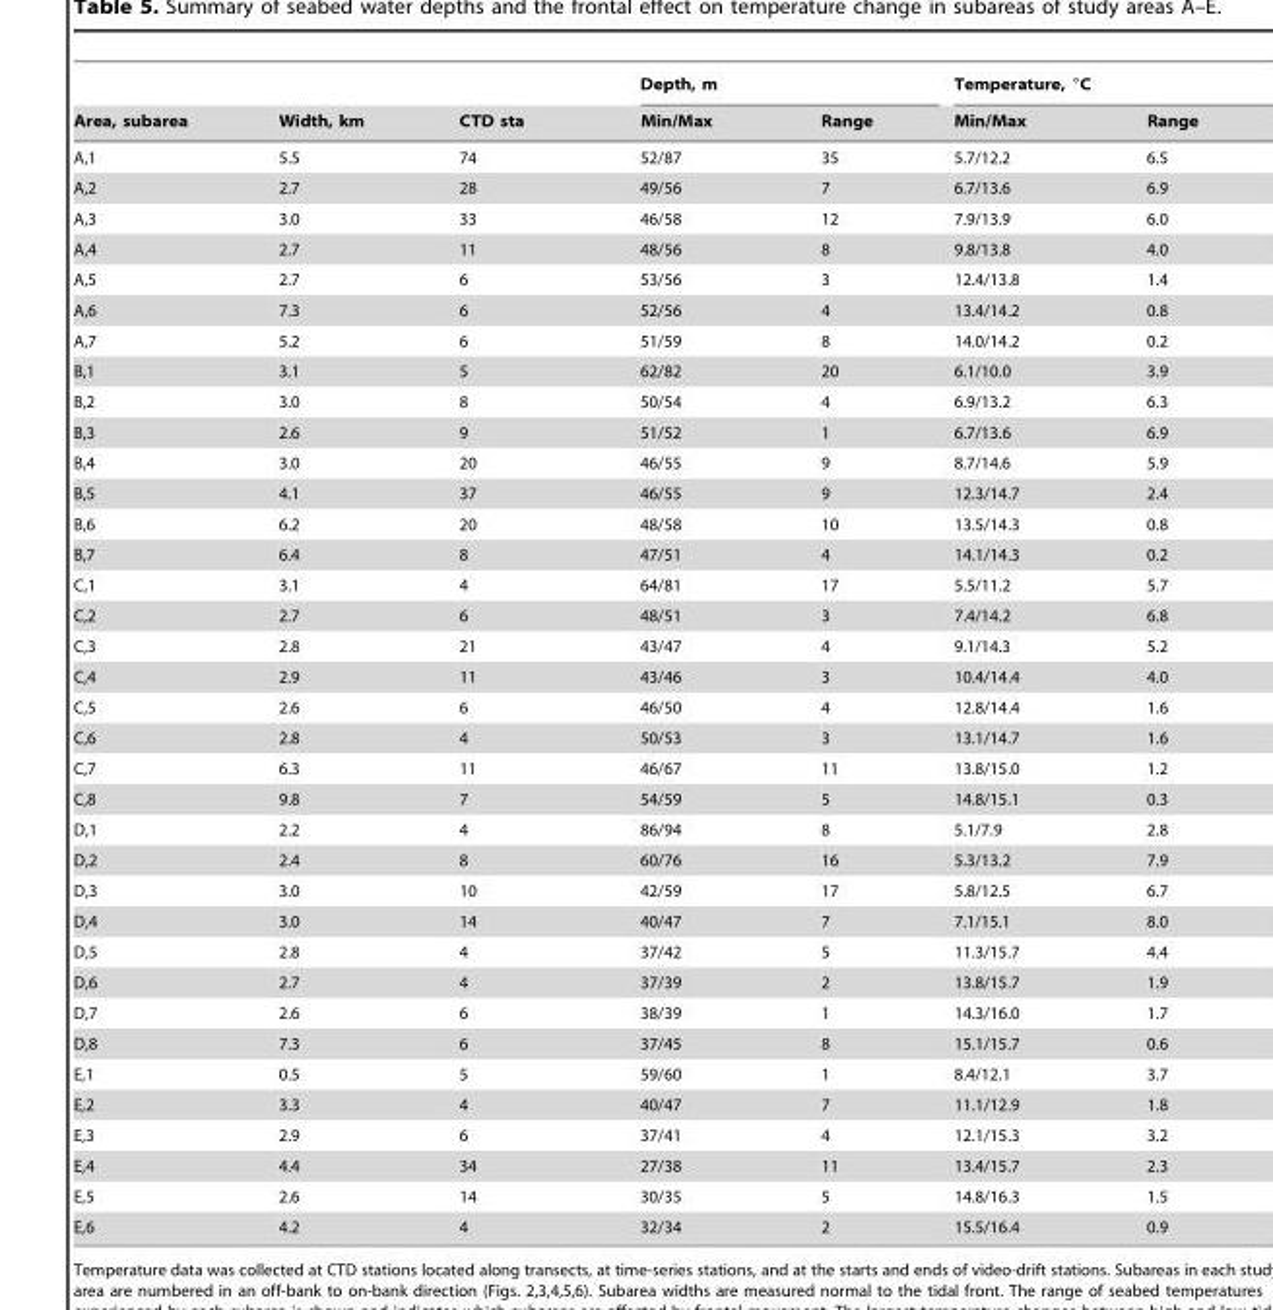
<table><thead><tr><td rowspan="2">Area, subarea</td><td rowspan="2">Width, km</td><td rowspan="2">CTD sta</td><td colspan="2">Depth, m</td><td colspan="2">Temperature, °C</td></tr><tr><td>Min/Max</td><td>Range</td><td>Min/Max</td><td>Range</td></tr></thead><tbody><tr><td>A,1</td><td>5.5</td><td>74</td><td>52/87</td><td>35</td><td>5.7/12.2</td><td>6.5</td></tr><tr><td>A,2</td><td>2.7</td><td>28</td><td>49/56</td><td>7</td><td>6.7/13.6</td><td>6.9</td></tr><tr><td>A,3</td><td>3.0</td><td>33</td><td>46/58</td><td>12</td><td>7.9/13.9</td><td>6.0</td></tr><tr><td>A,4</td><td>2.7</td><td>11</td><td>48/56</td><td>8</td><td>9.8/13.8</td><td>4.0</td></tr><tr><td>A,5</td><td>2.7</td><td>6</td><td>53/56</td><td>3</td><td>12.4/13.8</td><td>1.4</td></tr><tr><td>A,6</td><td>7.3</td><td>6</td><td>52/56</td><td>4</td><td>13.4/14.2</td><td>0.8</td></tr><tr><td>A,7</td><td>5.2</td><td>6</td><td>51/59</td><td>8</td><td>14.0/14.2</td><td>0.2</td></tr><tr><td>B,1</td><td>3.1</td><td>5</td><td>62/82</td><td>20</td><td>6.1/10.0</td><td>3.9</td></tr><tr><td>B,2</td><td>3.0</td><td>8</td><td>50/54</td><td>4</td><td>6.9/13.2</td><td>6.3</td></tr><tr><td>B,3</td><td>2.6</td><td>9</td><td>51/52</td><td>1</td><td>6.7/13.6</td><td>6.9</td></tr><tr><td>B,4</td><td>3.0</td><td>20</td><td>46/55</td><td>9</td><td>8.7/14.6</td><td>5.9</td></tr><tr><td>B,5</td><td>4.1</td><td>37</td><td>46/55</td><td>9</td><td>12.3/14.7</td><td>2.4</td></tr><tr><td>B,6</td><td>6.2</td><td>20</td><td>48/58</td><td>10</td><td>13.5/14.3</td><td>0.8</td></tr><tr><td>B,7</td><td>6.4</td><td>8</td><td>47/51</td><td>4</td><td>14.1/14.3</td><td>0.2</td></tr><tr><td>C,1</td><td>3.1</td><td>4</td><td>64/81</td><td>17</td><td>5.5/11.2</td><td>5.7</td></tr><tr><td>C,2</td><td>2.7</td><td>6</td><td>48/51</td><td>3</td><td>7.4/14.2</td><td>6.8</td></tr><tr><td>C,3</td><td>2.8</td><td>21</td><td>43/47</td><td>4</td><td>9.1/14.3</td><td>5.2</td></tr><tr><td>C,4</td><td>2.9</td><td>11</td><td>43/46</td><td>3</td><td>10.4/14.4</td><td>4.0</td></tr><tr><td>C,5</td><td>2.6</td><td>6</td><td>46/50</td><td>4</td><td>12.8/14.4</td><td>1.6</td></tr><tr><td>C,6</td><td>2.8</td><td>4</td><td>50/53</td><td>3</td><td>13.1/14.7</td><td>1.6</td></tr><tr><td>C,7</td><td>6.3</td><td>11</td><td>46/67</td><td>11</td><td>13.8/15.0</td><td>1.2</td></tr><tr><td>C,8</td><td>9.8</td><td>7</td><td>54/59</td><td>5</td><td>14.8/15.1</td><td>0.3</td></tr><tr><td>D,1</td><td>2.2</td><td>4</td><td>86/94</td><td>8</td><td>5.1/7.9</td><td>2.8</td></tr><tr><td>D,2</td><td>2.4</td><td>8</td><td>60/76</td><td>16</td><td>5.3/13.2</td><td>7.9</td></tr><tr><td>D,3</td><td>3.0</td><td>10</td><td>42/59</td><td>17</td><td>5.8/12.5</td><td>6.7</td></tr><tr><td>D,4</td><td>3.0</td><td>14</td><td>40/47</td><td>7</td><td>7.1/15.1</td><td>8.0</td></tr><tr><td>D,5</td><td>2.8</td><td>4</td><td>37/42</td><td>5</td><td>11.3/15.7</td><td>4.4</td></tr><tr><td>D,6</td><td>2.7</td><td>4</td><td>37/39</td><td>2</td><td>13.8/15.7</td><td>1.9</td></tr><tr><td>D,7</td><td>2.6</td><td>6</td><td>38/39</td><td>1</td><td>14.3/16.0</td><td>1.7</td></tr><tr><td>D,8</td><td>7.3</td><td>6</td><td>37/45</td><td>8</td><td>15.1/15.7</td><td>0.6</td></tr><tr><td>E,1</td><td>0.5</td><td>5</td><td>59/60</td><td>1</td><td>8.4/12.1</td><td>3.7</td></tr><tr><td>E,2</td><td>3.3</td><td>4</td><td>40/47</td><td>7</td><td>11.1/12.9</td><td>1.8</td></tr><tr><td>E,3</td><td>2.9</td><td>6</td><td>37/41</td><td>4</td><td>12.1/15.3</td><td>3.2</td></tr><tr><td>E,4</td><td>4.4</td><td>34</td><td>27/38</td><td>11</td><td>13.4/15.7</td><td>2.3</td></tr><tr><td>E,5</td><td>2.6</td><td>14</td><td>30/35</td><td>5</td><td>14.8/16.3</td><td>1.5</td></tr><tr><td>E,6</td><td>4.2</td><td>4</td><td>32/34</td><td>2</td><td>15.5/16.4</td><td>0.9</td></tr></tbody></table>